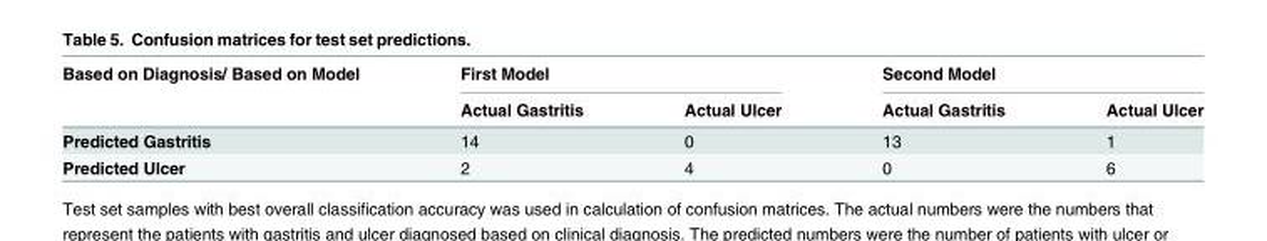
<table><thead><tr><td rowspan="2">Based on Diagnosis/ Based on Model</td><td colspan="2">First Model</td><td colspan="2">Second Model</td></tr><tr><td>Actual Gastritis</td><td>Actual Ulcer</td><td>Actual Gastritis</td><td>Actual Ulcer</td></tr></thead><tbody><tr><td>Predicted Gastritis</td><td>14</td><td>0</td><td>13</td><td>1</td></tr><tr><td>Predicted Ulcer</td><td>2</td><td>4</td><td>0</td><td>6</td></tr></tbody></table>